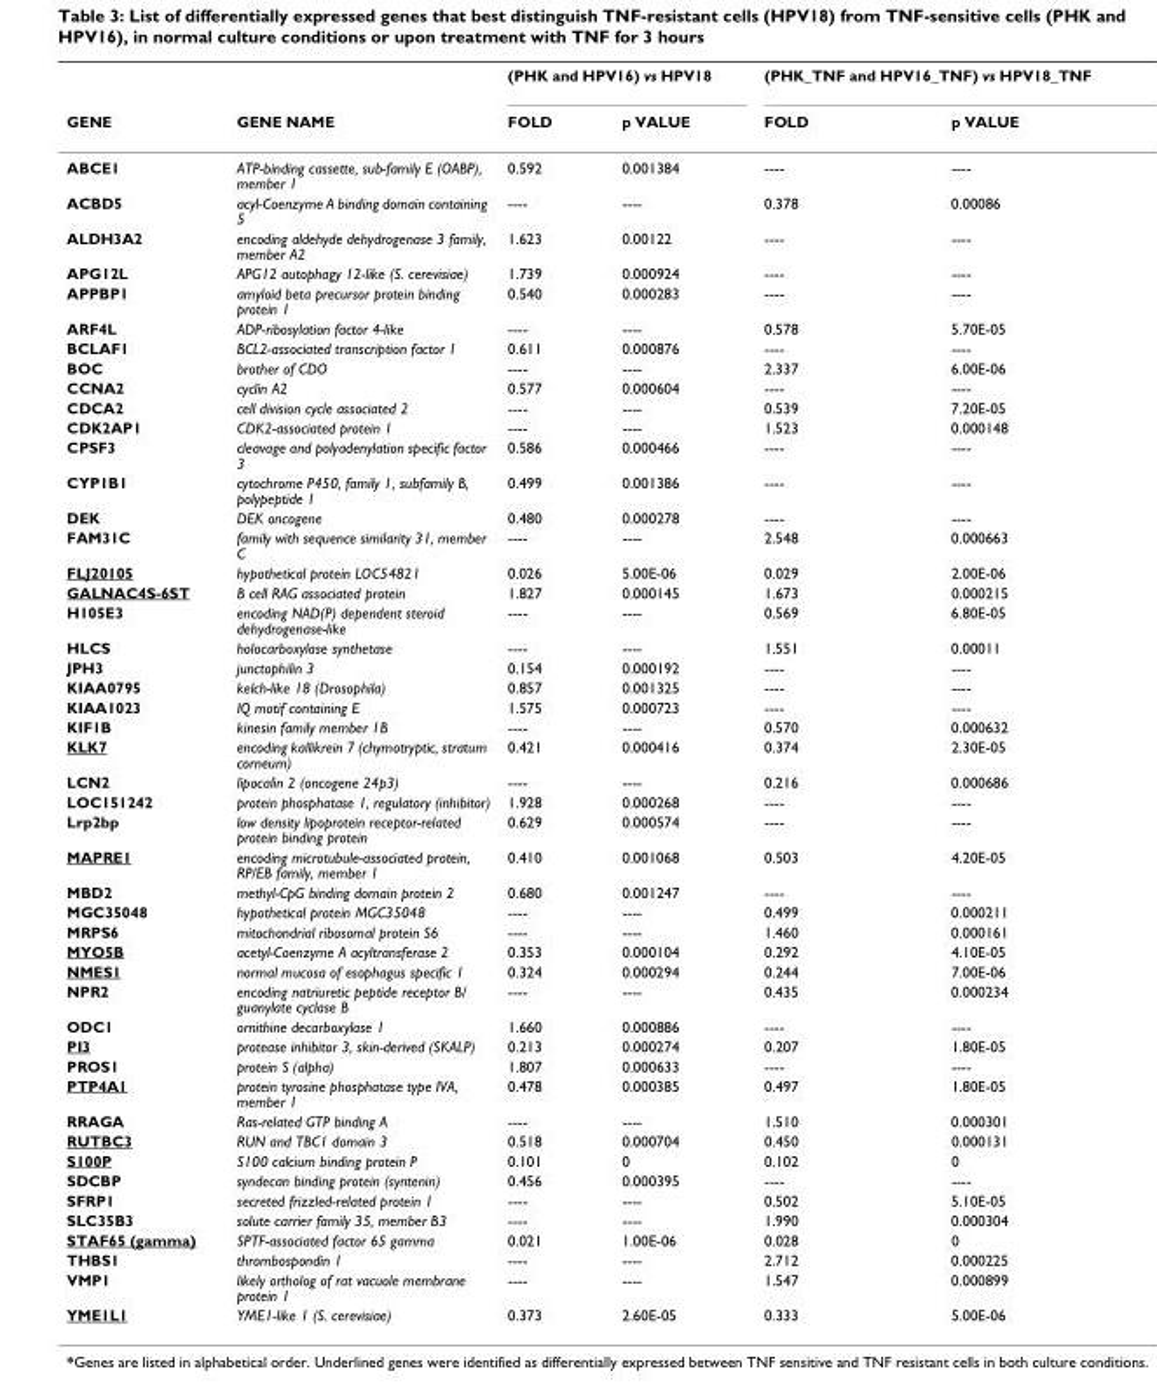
<table><thead><tr><td rowspan="2">GENE</td><td rowspan="2">GENE NAME</td><td colspan="2">(PHK and HPV16) vs HPV18</td><td colspan="2">(PHK_TNF and HPV16_TNF) vs HPV18_TNF</td></tr><tr><td>FOLD</td><td>p VALUE</td><td>FOLD</td><td>p VALUE</td></tr></thead><tbody><tr><td>ABCE1</td><td>ATP-binding cassette, sub-family E (OABP), member 1</td><td>0.592</td><td>0.001384</td><td>----</td><td>----</td></tr><tr><td>ACBD5</td><td>acyl-Coenzyme A binding domain containing 5</td><td>----</td><td>----</td><td>0.378</td><td>0.00086</td></tr><tr><td>ALDH3A2</td><td>encoding aldehyde dehydrogenase 3 family, member A2</td><td>1.623</td><td>0.00122</td><td>----</td><td>----</td></tr><tr><td>APG12L</td><td>APG12 autophagy 12-like (S. cerevisiae)</td><td>1.739</td><td>0.000924</td><td>----</td><td>----</td></tr><tr><td>APPBP1</td><td>amyloid beta precursor protein binding protein 1</td><td>0.540</td><td>0.000283</td><td>----</td><td>----</td></tr><tr><td>ARF4L</td><td>ADP-ribosylation factor 4-like</td><td>----</td><td>----</td><td>0.578</td><td>5.70E-05</td></tr><tr><td>BCLAF1</td><td>BCL2-associated transcription factor 1</td><td>0.611</td><td>0.000876</td><td>----</td><td>----</td></tr><tr><td>BOC</td><td>brother of CDO</td><td>----</td><td>----</td><td>2.337</td><td>6.00E-06</td></tr><tr><td>CCNA2</td><td>cyclin A2</td><td>0.577</td><td>0.000604</td><td>----</td><td>----</td></tr><tr><td>CDCA2</td><td>cell division cycle associated 2</td><td>----</td><td>----</td><td>0.539</td><td>7.20E-05</td></tr><tr><td>CDK2AP1</td><td>CDK2-associated protein 1</td><td>----</td><td>----</td><td>1.523</td><td>0.000148</td></tr><tr><td>CPSF3</td><td>cleavage and polyadenylation specific factor 3</td><td>0.586</td><td>0.000466</td><td>----</td><td>----</td></tr><tr><td>CYP1B1</td><td>cytochrome P450, family 1, subfamily B, polypeptide 1</td><td>0.499</td><td>0.001386</td><td>----</td><td>----</td></tr><tr><td>DEK</td><td>DEK oncogene</td><td>0.480</td><td>0.000278</td><td>----</td><td>----</td></tr><tr><td>FAM31C</td><td>family with sequence similarity 31, member C</td><td>----</td><td>----</td><td>2.548</td><td>0.000663</td></tr><tr><td>FLJ20105</td><td>hypothetical protein LOC54821</td><td>0.026</td><td>5.00E-06</td><td>0.029</td><td>2.00E-06</td></tr><tr><td>GALNAC4S-6ST</td><td>B cell RAG associated protein</td><td>1.827</td><td>0.000145</td><td>1.673</td><td>0.000215</td></tr><tr><td>H105E3</td><td>encoding NAD(P) dependent steroid dehydrogenase-like</td><td>----</td><td>----</td><td>0.569</td><td>6.80E-05</td></tr><tr><td>HLCS</td><td>holocarboxylase synthetase</td><td>----</td><td>----</td><td>1.551</td><td>0.00011</td></tr><tr><td>JPH3</td><td>junctophilin 3</td><td>0.154</td><td>0.000192</td><td>----</td><td>----</td></tr><tr><td>KIAA0795</td><td>kelch-like 18 (Drosophila)</td><td>0.857</td><td>0.001325</td><td>----</td><td>----</td></tr><tr><td>KIAA1023</td><td>IQ motif containing E</td><td>1.575</td><td>0.000723</td><td>----</td><td>----</td></tr><tr><td>KIF1B</td><td>kinesin family member 1B</td><td>----</td><td>----</td><td>0.570</td><td>0.000632</td></tr><tr><td>KLK7</td><td>encoding kallikrein 7 (chymotryptic, stratum corneum)</td><td>0.421</td><td>0.000416</td><td>0.374</td><td>2.30E-05</td></tr><tr><td>LCN2</td><td>lipocalin 2 (oncogene 24p3)</td><td>----</td><td>----</td><td>0.216</td><td>0.000686</td></tr><tr><td>LOC151242</td><td>protein phosphatase 1, regulatory (inhibitor)</td><td>1.928</td><td>0.000268</td><td>----</td><td>----</td></tr><tr><td>Lrp2bp</td><td>low density lipoprotein receptor-related protein binding protein</td><td>0.629</td><td>0.000574</td><td>----</td><td>----</td></tr><tr><td>MAPRE1</td><td>encoding microtubule-associated protein, RP/EB family, member 1</td><td>0.410</td><td>0.001068</td><td>0.503</td><td>4.20E-05</td></tr><tr><td>MBD2</td><td>methyl-CpG binding domain protein 2</td><td>0.680</td><td>0.001247</td><td>----</td><td>----</td></tr><tr><td>MGC35048</td><td>hypothetical protein MGC35048</td><td>----</td><td>----</td><td>0.499</td><td>0.000211</td></tr><tr><td>MRPS6</td><td>mitochondrial ribosomal protein S6</td><td>----</td><td>----</td><td>1.460</td><td>0.000161</td></tr><tr><td>MYO5B</td><td>acetyl-Coenzyme A acyltransferase 2</td><td>0.353</td><td>0.000104</td><td>0.292</td><td>4.10E-05</td></tr><tr><td>NMES1</td><td>normal mucosa of esophagus specific 1</td><td>0.324</td><td>0.000294</td><td>0.244</td><td>7.00E-06</td></tr><tr><td>NPR2</td><td>encoding natriuretic peptide receptor B/ guanylate cyclase B</td><td>----</td><td>----</td><td>0.435</td><td>0.000234</td></tr><tr><td>ODC1</td><td>ornithine decarboxylase 1</td><td>1.660</td><td>0.000886</td><td>----</td><td>----</td></tr><tr><td>PI3</td><td>protease inhibitor 3, skin-derived (SKALP)</td><td>0.213</td><td>0.000274</td><td>0.207</td><td>1.80E-05</td></tr><tr><td>PROS1</td><td>protein S (alpha)</td><td>1.807</td><td>0.000633</td><td>----</td><td>----</td></tr><tr><td>PTP4A1</td><td>protein tyrosine phosphatase type IVA, member 1</td><td>0.478</td><td>0.000385</td><td>0.497</td><td>1.80E-05</td></tr><tr><td>RRAGA</td><td>Ras-related GTP binding A</td><td>----</td><td>----</td><td>1.510</td><td>0.000301</td></tr><tr><td>RUTBC3</td><td>RUN and TBC1 domain 3</td><td>0.518</td><td>0.000704</td><td>0.450</td><td>0.000131</td></tr><tr><td>S100P</td><td>S100 calcium binding protein P</td><td>0.101</td><td>0</td><td>0.102</td><td>0</td></tr><tr><td>SDCBP</td><td>syndecan binding protein (syntenin)</td><td>0.456</td><td>0.000395</td><td>----</td><td>----</td></tr><tr><td>SFRP1</td><td>secreted frizzled-related protein 1</td><td>----</td><td>----</td><td>0.502</td><td>5.10E-05</td></tr><tr><td>SLC35B3</td><td>solute carrier family 35, member B3</td><td>----</td><td>----</td><td>1.990</td><td>0.000304</td></tr><tr><td>STAF65 (gamma)</td><td>SPTF-associated factor 65 gamma</td><td>0.021</td><td>1.00E-06</td><td>0.028</td><td>0</td></tr><tr><td>THBS1</td><td>thrombospondin 1</td><td>----</td><td>----</td><td>2.712</td><td>0.000225</td></tr><tr><td>VMP1</td><td>likely ortholog of rat vacuole membrane protein 1</td><td>----</td><td>----</td><td>1.547</td><td>0.000899</td></tr><tr><td>YME1L1</td><td>YME1-like 1 (S. cerevisiae)</td><td>0.373</td><td>2.60E-05</td><td>0.333</td><td>5.00E-06</td></tr></tbody></table>